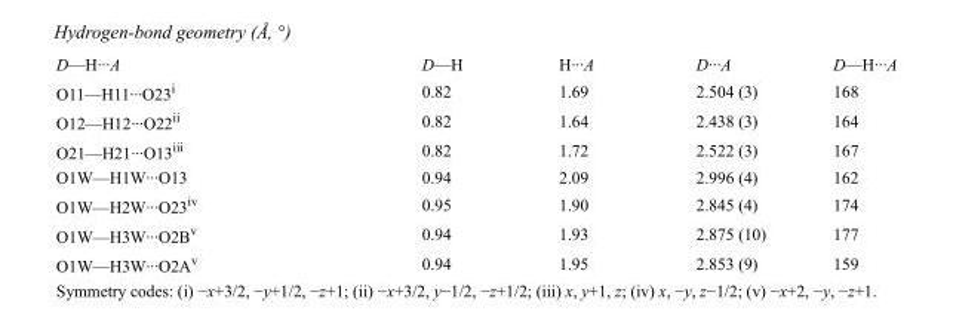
<table><tbody><tr><td>D—H···A</td><td>D—H</td><td>H···A</td><td>D···A</td><td>D—H···A</td></tr><tr><td>O11—H11···O23<sup>i</sup></td><td>0.82</td><td>1.69</td><td>2.504 (3)</td><td>168</td></tr><tr><td>O12—H12···O22<sup>ii</sup></td><td>0.82</td><td>1.64</td><td>2.438 (3)</td><td>164</td></tr><tr><td>O21—H21···O13<sup>iii</sup></td><td>0.82</td><td>1.72</td><td>2.522 (3)</td><td>167</td></tr><tr><td>O1W—H1W···O13</td><td>0.94</td><td>2.09</td><td>2.996 (4)</td><td>162</td></tr><tr><td>O1W—H2W···O23<sup>iv</sup></td><td>0.95</td><td>1.90</td><td>2.845 (4)</td><td>174</td></tr><tr><td>O1W—H3W···O2B<sup>v</sup></td><td>0.94</td><td>1.93</td><td>2.875 (10)</td><td>177</td></tr><tr><td>O1W—H3W···O2A<sup>v</sup></td><td>0.94</td><td>1.95</td><td>2.853 (9)</td><td>159</td></tr></tbody></table>